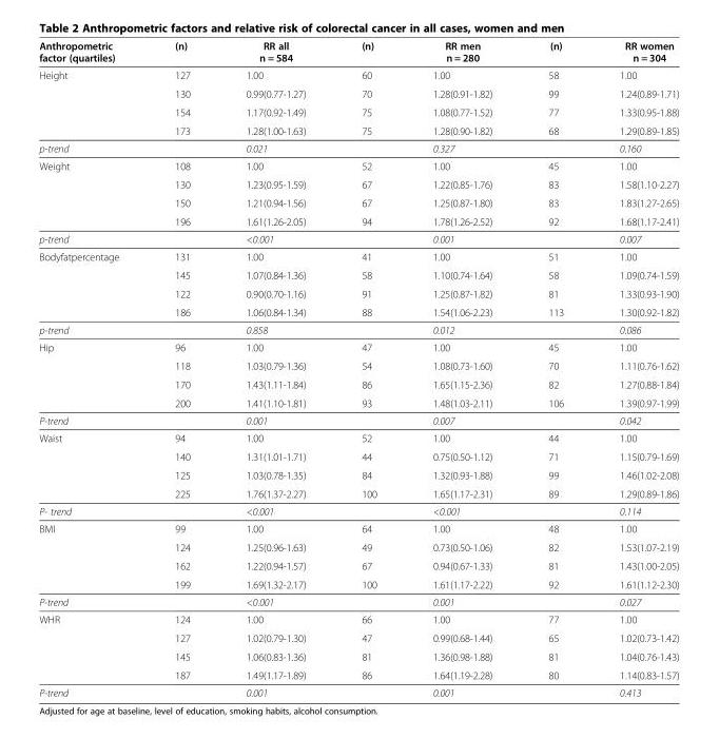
<table><thead><tr><td>Anthropometric factor (quartiles)</td><td>(n)</td><td>RR all n = 584</td><td>(n)</td><td>RR men n = 280</td><td>(n)</td><td>RR women n = 304</td></tr></thead><tbody><tr><td rowspan="4">Height</td><td>127</td><td>1.00</td><td>60</td><td>1.00</td><td>58</td><td>1.00</td></tr><tr><td>130</td><td>0.99(0.77-1.27)</td><td>70</td><td>1.28(0.91-1.82)</td><td>99</td><td>1.24(0.89-1.71)</td></tr><tr><td>154</td><td>1.17(0.92-1.49)</td><td>75</td><td>1.08(0.77-1.52)</td><td>77</td><td>1.33(0.95-1.88)</td></tr><tr><td>173</td><td>1.28(1.00-1.63)</td><td>75</td><td>1.28(0.90-1.82)</td><td>68</td><td>1.29(0.89-1.85)</td></tr><tr><td>p-trend</td><td></td><td>0.021</td><td></td><td>0.327</td><td></td><td>0.160</td></tr><tr><td rowspan="4">Weight</td><td>108</td><td>1.00</td><td>52</td><td>1.00</td><td>45</td><td>1.00</td></tr><tr><td>130</td><td>1.23(0.95-1.59)</td><td>67</td><td>1.22(0.85-1.76)</td><td>83</td><td>1.58(1.10-2.27)</td></tr><tr><td>150</td><td>1.21(0.94-1.56)</td><td>67</td><td>1.25(0.87-1.80)</td><td>83</td><td>1.83(1.27-2.65)</td></tr><tr><td>196</td><td>1.61(1.26-2.05)</td><td>94</td><td>1.78(1.26-2.52)</td><td>92</td><td>1.68(1.17-2.41)</td></tr><tr><td>p-trend</td><td></td><td>&lt;0.001</td><td></td><td>0.001</td><td></td><td>0.007</td></tr><tr><td rowspan="4">Bodyfatpercentage</td><td>131</td><td>1.00</td><td>41</td><td>1.00</td><td>51</td><td>1.00</td></tr><tr><td>145</td><td>1.07(0.84-1.36)</td><td>58</td><td>1.10(0.74-1.64)</td><td>58</td><td>1.09(0.74-1.59)</td></tr><tr><td>122</td><td>0.90(0.70-1.16)</td><td>91</td><td>1.25(0.87-1.82)</td><td>81</td><td>1.33(0.93-1.90)</td></tr><tr><td>186</td><td>1.06(0.84-1.34)</td><td>88</td><td>1.54(1.06-2.23)</td><td>113</td><td>1.30(0.92-1.82)</td></tr><tr><td>p-trend</td><td></td><td>0.858</td><td></td><td>0.012</td><td></td><td>0.086</td></tr><tr><td rowspan="4">Hip</td><td>96</td><td>1.00</td><td>47</td><td>1.00</td><td>45</td><td>1.00</td></tr><tr><td>118</td><td>1.03(0.79-1.36)</td><td>54</td><td>1.08(0.73-1.60)</td><td>70</td><td>1.11(0.76-1.62)</td></tr><tr><td>170</td><td>1.43(1.11-1.84)</td><td>86</td><td>1.65(1.15-2.36)</td><td>82</td><td>1.27(0.88-1.84)</td></tr><tr><td>200</td><td>1.41(1.10-1.81)</td><td>93</td><td>1.48(1.03-2.11)</td><td>106</td><td>1.39(0.97-1.99)</td></tr><tr><td>P-trend</td><td></td><td>0.001</td><td></td><td>0.007</td><td></td><td>0.042</td></tr><tr><td rowspan="4">Waist</td><td>94</td><td>1.00</td><td>52</td><td>1.00</td><td>44</td><td>1.00</td></tr><tr><td>140</td><td>1.31(1.01-1.71)</td><td>44</td><td>0.75(0.50-1.12)</td><td>71</td><td>1.15(0.79-1.69)</td></tr><tr><td>125</td><td>1.03(0.78-1.35)</td><td>84</td><td>1.32(0.93-1.88)</td><td>99</td><td>1.46(1.02-2.08)</td></tr><tr><td>225</td><td>1.76(1.37-2.27)</td><td>100</td><td>1.65(1.17-2.31)</td><td>89</td><td>1.29(0.89-1.86)</td></tr><tr><td>P- trend</td><td></td><td>&lt;0.001</td><td></td><td>&lt;0.001</td><td></td><td>0.114</td></tr><tr><td rowspan="4">BMI</td><td>99</td><td>1.00</td><td>64</td><td>1.00</td><td>48</td><td>1.00</td></tr><tr><td>124</td><td>1.25(0.96-1.63)</td><td>49</td><td>0.73(0.50-1.06)</td><td>82</td><td>1.53(1.07-2.19)</td></tr><tr><td>162</td><td>1.22(0.94-1.57)</td><td>67</td><td>0.94(0.67-1.33)</td><td>81</td><td>1.43(1.00-2.05)</td></tr><tr><td>199</td><td>1.69(1.32-2.17)</td><td>100</td><td>1.61(1.17-2.22)</td><td>92</td><td>1.61(1.12-2.30)</td></tr><tr><td>P-trend</td><td></td><td>&lt;0.001</td><td></td><td>0.001</td><td></td><td>0.027</td></tr><tr><td rowspan="4">WHR</td><td>124</td><td>1.00</td><td>66</td><td>1.00</td><td>77</td><td>1.00</td></tr><tr><td>127</td><td>1.02(0.79-1.30)</td><td>47</td><td>0.99(0.68-1.44)</td><td>65</td><td>1.02(0.73-1.42)</td></tr><tr><td>145</td><td>1.06(0.83-1.36)</td><td>81</td><td>1.36(0.98-1.88)</td><td>81</td><td>1.04(0.76-1.43)</td></tr><tr><td>187</td><td>1.49(1.17-1.89)</td><td>86</td><td>1.64(1.19-2.28)</td><td>80</td><td>1.14(0.83-1.57)</td></tr><tr><td>P-trend</td><td></td><td>0.001</td><td></td><td>0.001</td><td></td><td>0.413</td></tr></tbody></table>